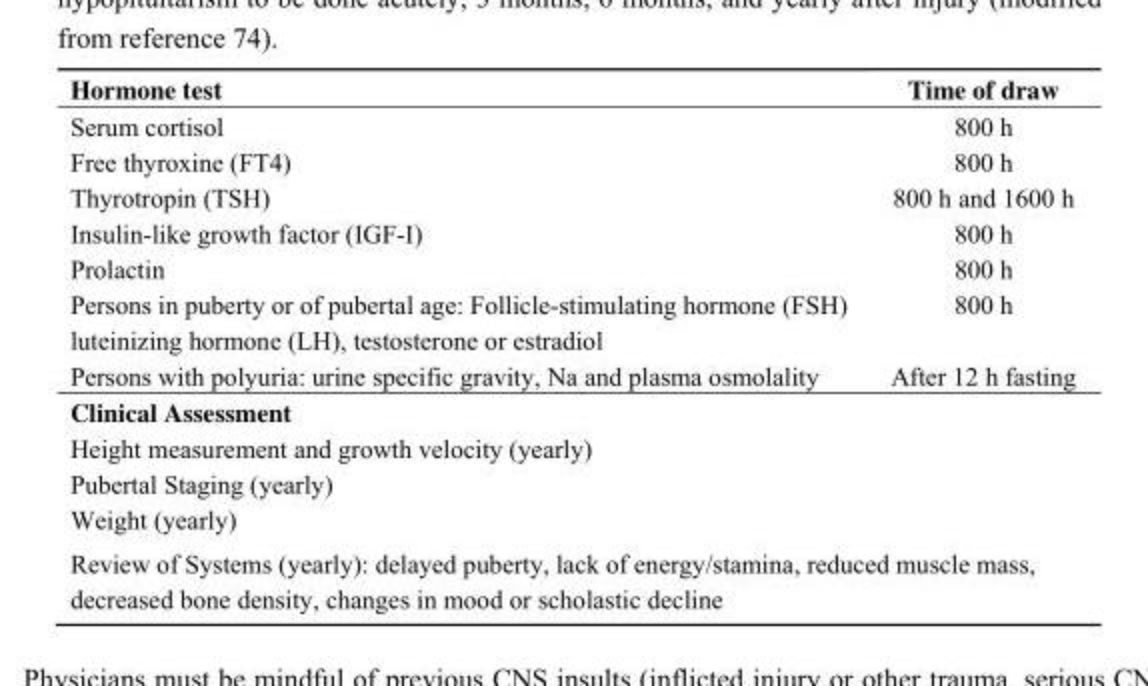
<table><thead><tr><td>Hormone test</td><td>Time of draw</td></tr></thead><tbody><tr><td>Serum cortisol</td><td>800 h</td></tr><tr><td>Free thyroxine (FT4)</td><td>800 h</td></tr><tr><td>Thyrotropin (TSH)</td><td>800 h and 1600 h</td></tr><tr><td>Insulin-like growth factor (IGF-I)</td><td>800 h</td></tr><tr><td>Prolactin</td><td>800 h</td></tr><tr><td>Persons in puberty or of pubertal age: Follicle-stimulating hormone (FSH)</td><td>800 h</td></tr><tr><td colspan="2">luteinizing hormone (LH), testosterone or estradiol</td></tr><tr><td>Persons with polyuria: urine specific gravity, Na and plasma osmolality</td><td>After 12 h fasting</td></tr><tr><td colspan="2">Clinical Assessment</td></tr><tr><td colspan="2">Height measurement and growth velocity (yearly)</td></tr><tr><td colspan="2">Pubertal Staging (yearly)</td></tr><tr><td colspan="2">Weight (yearly)</td></tr><tr><td colspan="2">Review of Systems (yearly): delayed puberty, lack of energy/stamina, reduced muscle mass, decreased bone density, changes in mood or scholastic decline</td></tr></tbody></table>